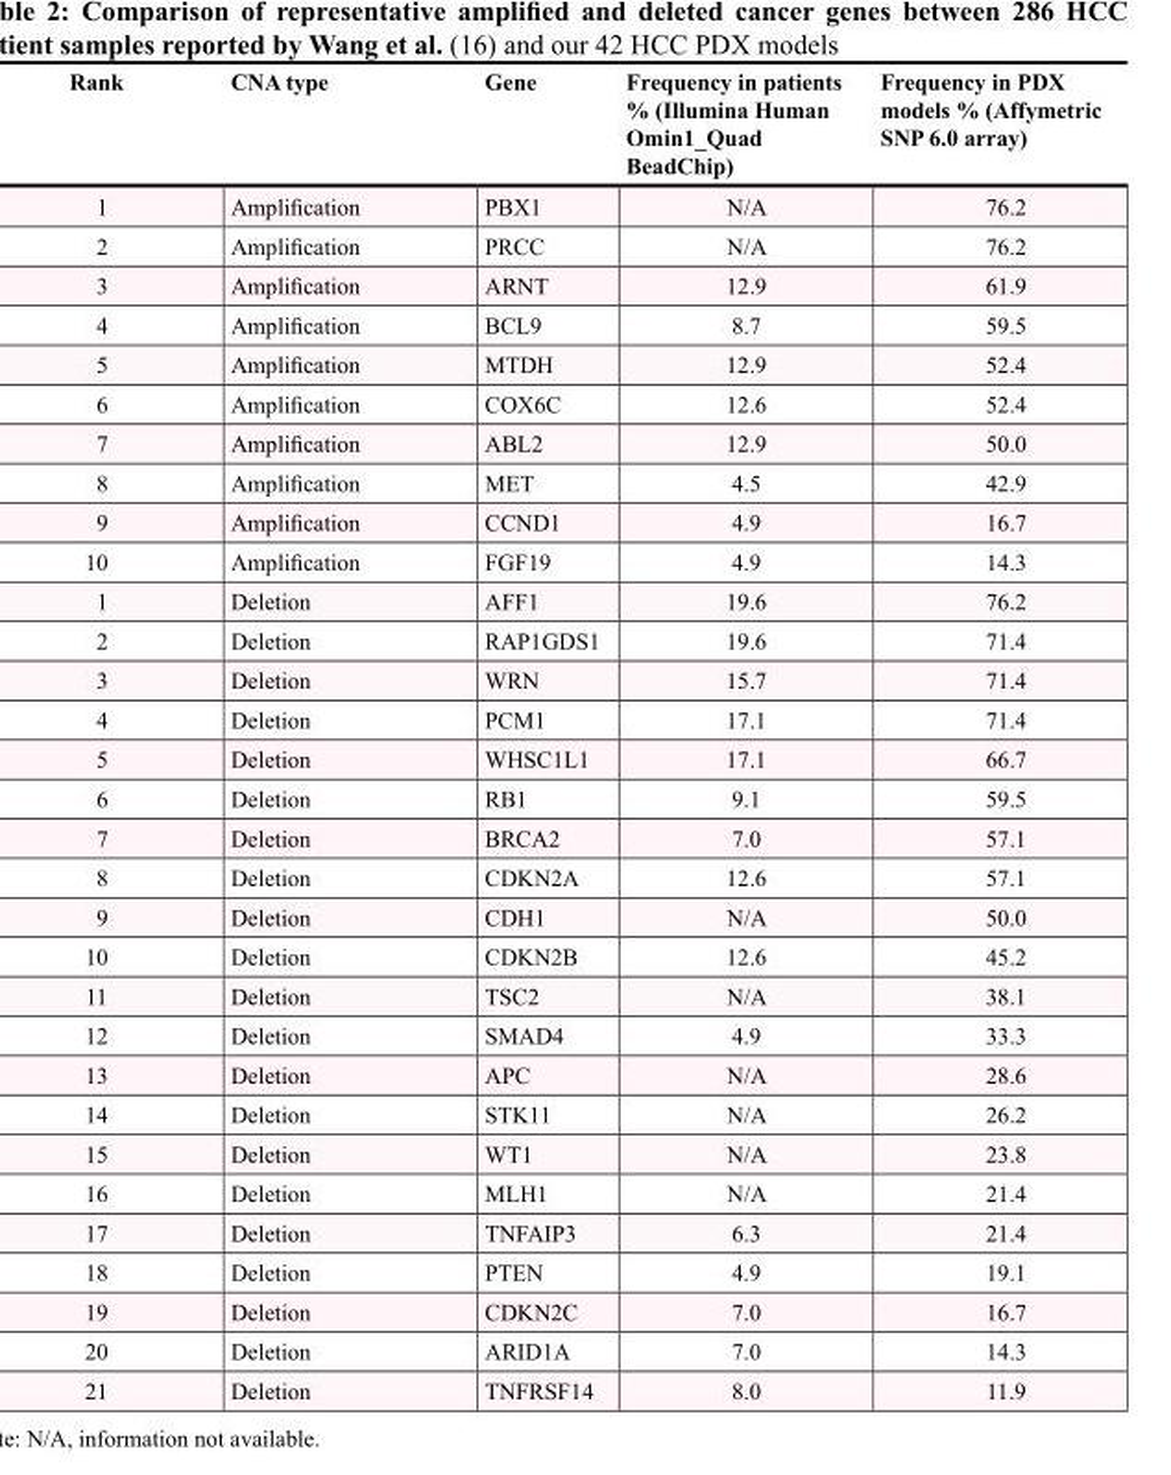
<table><thead><tr><td>Rank</td><td>CNA type</td><td>Gene</td><td>Frequency in patients % (Illumina Human Omin1_Quad BeadChip)</td><td>Frequency in PDX models % (Affymetric SNP 6.0 array)</td></tr></thead><tbody><tr><td>1</td><td>Amplification</td><td>PBX1</td><td>N/A</td><td>76.2</td></tr><tr><td>2</td><td>Amplification</td><td>PRCC</td><td>N/A</td><td>76.2</td></tr><tr><td>3</td><td>Amplification</td><td>ARNT</td><td>12.9</td><td>61.9</td></tr><tr><td>4</td><td>Amplification</td><td>BCL9</td><td>8.7</td><td>59.5</td></tr><tr><td>5</td><td>Amplification</td><td>MTDH</td><td>12.9</td><td>52.4</td></tr><tr><td>6</td><td>Amplification</td><td>COX6C</td><td>12.6</td><td>52.4</td></tr><tr><td>7</td><td>Amplification</td><td>ABL2</td><td>12.9</td><td>50.0</td></tr><tr><td>8</td><td>Amplification</td><td>MET</td><td>4.5</td><td>42.9</td></tr><tr><td>9</td><td>Amplification</td><td>CCND1</td><td>4.9</td><td>16.7</td></tr><tr><td>10</td><td>Amplification</td><td>FGF19</td><td>4.9</td><td>14.3</td></tr><tr><td>1</td><td>Deletion</td><td>AFF1</td><td>19.6</td><td>76.2</td></tr><tr><td>2</td><td>Deletion</td><td>RAP1GDS1</td><td>19.6</td><td>71.4</td></tr><tr><td>3</td><td>Deletion</td><td>WRN</td><td>15.7</td><td>71.4</td></tr><tr><td>4</td><td>Deletion</td><td>PCM1</td><td>17.1</td><td>71.4</td></tr><tr><td>5</td><td>Deletion</td><td>WHSC1L1</td><td>17.1</td><td>66.7</td></tr><tr><td>6</td><td>Deletion</td><td>RB1</td><td>9.1</td><td>59.5</td></tr><tr><td>7</td><td>Deletion</td><td>BRCA2</td><td>7.0</td><td>57.1</td></tr><tr><td>8</td><td>Deletion</td><td>CDKN2A</td><td>12.6</td><td>57.1</td></tr><tr><td>9</td><td>Deletion</td><td>CDH1</td><td>N/A</td><td>50.0</td></tr><tr><td>10</td><td>Deletion</td><td>CDKN2B</td><td>12.6</td><td>45.2</td></tr><tr><td>11</td><td>Deletion</td><td>TSC2</td><td>N/A</td><td>38.1</td></tr><tr><td>12</td><td>Deletion</td><td>SMAD4</td><td>4.9</td><td>33.3</td></tr><tr><td>13</td><td>Deletion</td><td>APC</td><td>N/A</td><td>28.6</td></tr><tr><td>14</td><td>Deletion</td><td>STK11</td><td>N/A</td><td>26.2</td></tr><tr><td>15</td><td>Deletion</td><td>WT1</td><td>N/A</td><td>23.8</td></tr><tr><td>16</td><td>Deletion</td><td>MLH1</td><td>N/A</td><td>21.4</td></tr><tr><td>17</td><td>Deletion</td><td>TNFAIP3</td><td>6.3</td><td>21.4</td></tr><tr><td>18</td><td>Deletion</td><td>PTEN</td><td>4.9</td><td>19.1</td></tr><tr><td>19</td><td>Deletion</td><td>CDKN2C</td><td>7.0</td><td>16.7</td></tr><tr><td>20</td><td>Deletion</td><td>ARID1A</td><td>7.0</td><td>14.3</td></tr><tr><td>21</td><td>Deletion</td><td>TNFRSF14</td><td>8.0</td><td>11.9</td></tr></tbody></table>